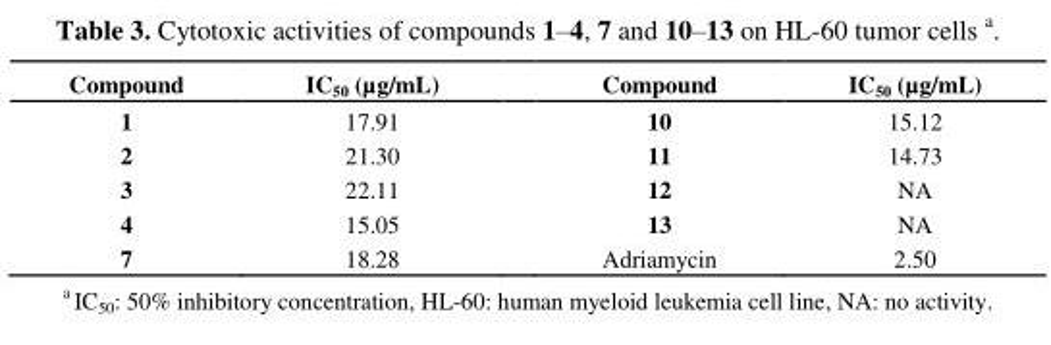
<table><thead><tr><td>Compound</td><td>IC<sub>50</sub> (µg/mL)</td><td>Compound</td><td>IC<sub>50</sub> (µg/mL)</td></tr></thead><tbody><tr><td>1</td><td>17.91</td><td>10</td><td>15.12</td></tr><tr><td>2</td><td>21.30</td><td>11</td><td>14.73</td></tr><tr><td>3</td><td>22.11</td><td>12</td><td>NA</td></tr><tr><td>4</td><td>15.05</td><td>13</td><td>NA</td></tr><tr><td>7</td><td>18.28</td><td>Adriamycin</td><td>2.50</td></tr></tbody></table>